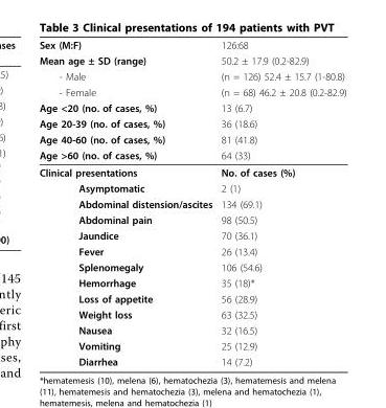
<table><thead><tr><td rowspan="8">Sex (M:F) Mean age ± SD (range) - Male - Female Age &lt;20 (no. of cases, %) Age 20-39 (no. of cases, %) Age 40-60 (no. of cases, %) Age &gt;60 (no. of cases, %)</td><td rowspan="8">126:68 50.2 ± 17.9 (0.2-82.9) (n = 126) 52.4 ± 15.7 (1-80.8) (n = 68) 46.2 ± 20.8 (0.2-82.9) 13 (6.7) 36 (18.6) 81 (41.8) 64 (33)</td></tr><tr></tr><tr></tr><tr></tr><tr></tr><tr></tr><tr></tr><tr></tr></thead><tbody><tr><td>Clinical presentations</td><td>No. of cases (%)</td></tr><tr><td>Asymptomatic</td><td>2 (1)</td></tr><tr><td>Abdominal distension/ascites</td><td>134 (69.1)</td></tr><tr><td>Abdominal pain</td><td>98 (50.5)</td></tr><tr><td>Jaundice</td><td>70 (36.1)</td></tr><tr><td>Fever</td><td>26 (13.4)</td></tr><tr><td>Splenomegaly</td><td>106 (54.6)</td></tr><tr><td>Hemorrhage</td><td>35 (18)*</td></tr><tr><td>Loss of appetite</td><td>56 (28.9)</td></tr><tr><td>Weight loss</td><td>63 (32.5)</td></tr><tr><td>Nausea</td><td>32 (16.5)</td></tr><tr><td>Vomiting</td><td>25 (12.9)</td></tr><tr><td>Diarrhea</td><td>14 (7.2)</td></tr></tbody></table>